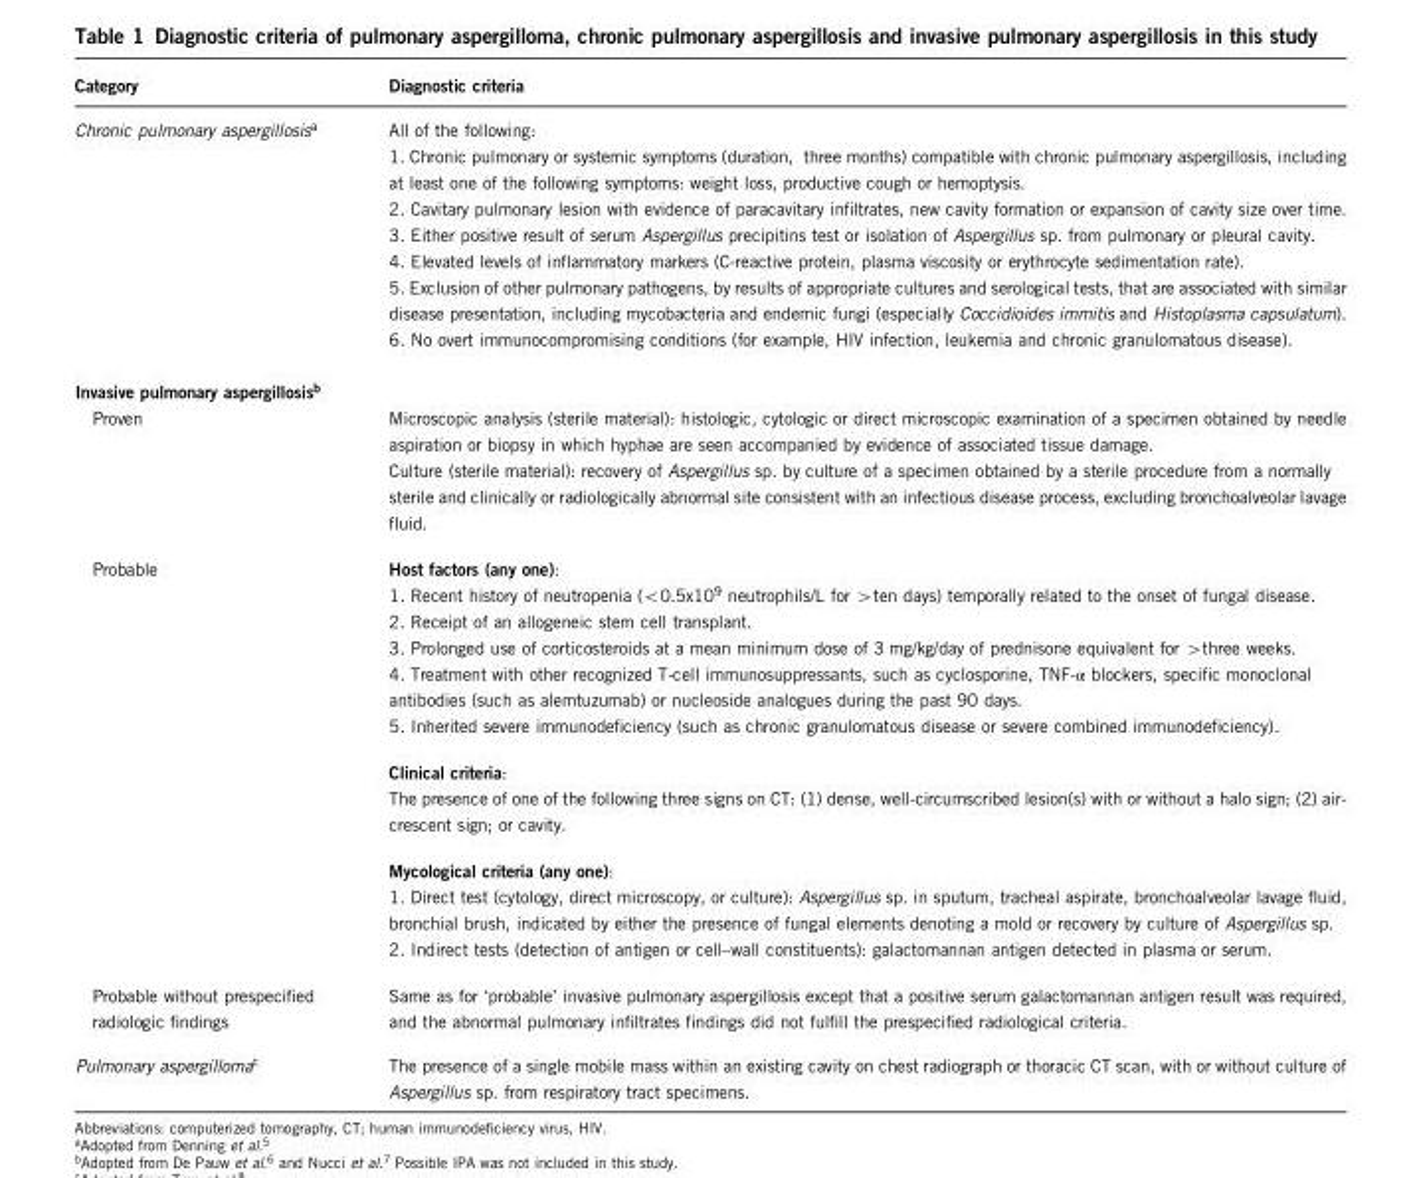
<table><thead><tr><td>Category</td><td>Diagnostic criteria</td></tr></thead><tbody><tr><td>Chronic pulmonary aspergillosis<sup>a</sup></td><td>All of the following: 1. Chronic pulmonary or systemic symptoms (duration, three months) compatible with chronic pulmonary aspergillosis, including at least one of the following symptoms: weight loss, productive cough or hemoptysis. 2. Cavitary pulmonary lesion with evidence of paracavitary infiltrates, new cavity formation or expansion of cavity size over time. 3. Either positive result of serum Aspergillus precipitins test or isolation of Aspergillus sp. from pulmonary or pleural cavity. 4. Elevated levels of inflammatory markers (C-reactive protein, plasma viscosity or erythrocyte sedimentation rate). 5. Exclusion of other pulmonary pathogens, by results of appropriate cultures and serological tests, that are associated with similar disease presentation, including mycobacteria and endemic fungi (especially Coccidioides immitis and Histoplasma capsulatum). 6. No overt immunocompromising conditions (for example, HIV infection, leukemia and chronic granulomatous disease).</td></tr><tr><td colspan="2">Invasive pulmonary aspergillosis<sup>b</sup></td></tr><tr><td>Proven</td><td>Microscopic analysis (sterile material): histologic, cytologic or direct microscopic examination of a specimen obtained by needle aspiration or biopsy in which hyphae are seen accompanied by evidence of associated tissue damage. Culture (sterile material): recovery of Aspergillus sp. by culture of a specimen obtained by a sterile procedure from a normally sterile and clinically or radiologically abnormal site consistent with an infectious disease process, excluding bronchoalveolar lavage fluid.</td></tr><tr><td rowspan="3">Probable</td><td>Host factors (any one): 1. Recent history of neutropenia (&lt;0.5x10<sup>9</sup> neutrophils/L for &gt;ten days) temporally related to the onset of fungal disease. 2. Receipt of an allogeneic stem cell transplant. 3. Prolonged use of corticosteroids at a mean minimum dose of 3 mg/kg/day of prednisone equivalent for &gt;three weeks. 4. Treatment with other recognized T-cell immunosuppressants, such as cyclosporine, TNF-α blockers, specific monoclonal antibodies (such as alemtuzumab) or nucleoside analogues during the past 90 days. 5. Inherited severe immunodeficiency (such as chronic granulomatous disease or severe combined immunodeficiency).</td></tr><tr><td>Clinical criteria: The presence of one of the following three signs on CT: (1) dense, well-circumscribed lesion(s) with or without a halo sign; (2) air- crescent sign; or cavity.</td></tr><tr><td>Mycological criteria (any one): 1. Direct test (cytology, direct microscopy, or culture): Aspergillus sp. in sputum, tracheal aspirate, bronchoalveolar lavage fluid, bronchial brush, indicated by either the presence of fungal elements denoting a mold or recovery by culture of Aspergillus sp. 2. Indirect tests (detection of antigen or cell–wall constituents): galactomannan antigen detected in plasma or serum.</td></tr><tr><td>Probable without prespecified radiologic findings</td><td>Same as for ‘probable’ invasive pulmonary aspergillosis except that a positive serum galactomannan antigen result was required, and the abnormal pulmonary infiltrates findings did not fulfill the prespecified radiological criteria.</td></tr><tr><td>Pulmonary aspergilloma<sup>c</sup></td><td>The presence of a single mobile mass within an existing cavity on chest radiograph or thoracic CT scan, with or without culture of Aspergillus sp. from respiratory tract specimens.</td></tr></tbody></table>